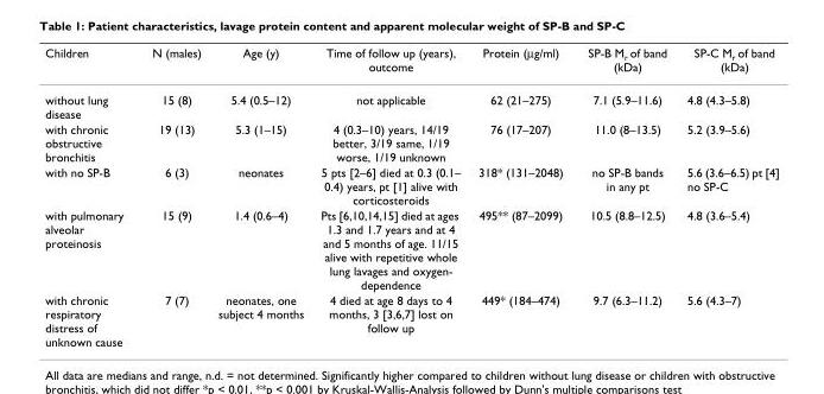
<table><thead><tr><td>Children</td><td>N (males)</td><td>Age (y)</td><td>Time of follow up (years), outcome</td><td>Protein (µg/ml)</td><td>SP-B M<sub>r</sub> of band (kDa)</td><td>SP-C M<sub>r</sub> of band (kDa)</td></tr></thead><tbody><tr><td>without lung disease</td><td>15 (8)</td><td>5.4 (0.5–12)</td><td>not applicable</td><td>62 (21–275)</td><td>7.1 (5.9–11.6)</td><td>4.8 (4.3–5.8)</td></tr><tr><td>with chronic obstructive bronchitis</td><td>19 (13)</td><td>5.3 (1–15)</td><td>4 (0.3–10) years, 14/19 better, 3/19 same, 1/19 worse, 1/19 unknown</td><td>76 (17–207)</td><td>11.0 (8–13.5)</td><td>5.2 (3.9–5.6)</td></tr><tr><td>with no SP-B</td><td>6 (3)</td><td>neonates</td><td>5 pts [2–6] died at 0.3 (0.1– 0.4) years, pt [1] alive with corticosteroids</td><td>318* (131–2048)</td><td>no SP-B bands in any pt</td><td>5.6 (3.6–6.5) pt [4] no SP-C</td></tr><tr><td>with pulmonary alveolar proteinosis</td><td>15 (9)</td><td>1.4 (0.6–4)</td><td>Pts [6,10,14,15] died at ages 1.3 and 1.7 years and at 4 and 5 months of age. 11/15 alive with repetitive whole lung lavages and oxygen- dependence</td><td>495** (87–2099)</td><td>10.5 (8.8–12.5)</td><td>4.8 (3.6–5.4)</td></tr><tr><td>with chronic respiratory distress of unknown cause</td><td>7 (7)</td><td>neonates, one subject 4 months</td><td>4 died at age 8 days to 4 months, 3 [3,6,7] lost on follow up</td><td>449* (184–474)</td><td>9.7 (6.3–11.2)</td><td>5.6 (4.3–7)</td></tr></tbody></table>